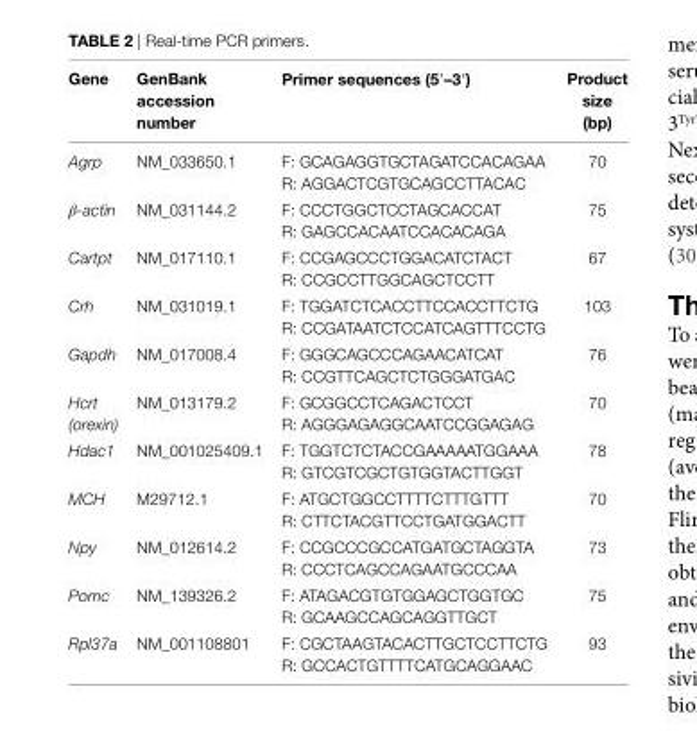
<table><thead><tr><td>gene</td><td>genbank accession number</td><td>Primer sequences (5′–3′)</td><td>Product size (bp)</td></tr></thead><tbody><tr><td>Agrp</td><td>NM_033650.1</td><td>F: GCAGAGGTGCTAGATCCACAGAA R: AGGACTCGTGCAGCCTTACAC</td><td>70</td></tr><tr><td>β-actin</td><td>NM_031144.2</td><td>F: CCCTGGCTCCTAGCACCAT R: GAGCCACAATCCACACAGA</td><td>75</td></tr><tr><td>Cartpt</td><td>NM_017110.1</td><td>F: CCGAGCCCTGGACATCTACT R: CCGCCTTGGCAGCTCCTT</td><td>67</td></tr><tr><td>Crh</td><td>NM_031019.1</td><td>F: TGGATCTCACCTTCCACCTTCTG R: CCGATAATCTCCATCAGTTTCCTG</td><td>103</td></tr><tr><td>Gapdh</td><td>NM_017008.4</td><td>F: GGGCAGCCCAGAACATCAT R: CCGTTCAGCTCTGGGATGAC</td><td>76</td></tr><tr><td>Hcrt (orexin)</td><td>NM_013179.2</td><td>F: GCGGCCTCAGACTCCT R: AGGGAGAGGCAATCCGGAGAG</td><td>70</td></tr><tr><td>Hdac1</td><td>NM_001025409.1</td><td>F: TGGTCTCTACCGAAAAATGGAAA R: GTCGTCGCTGTGGTACTTGGT</td><td>78</td></tr><tr><td>MCH</td><td>M29712.1</td><td>F: ATGCTGGCCTTTTCTTTGTTT R: CTTCTACGTTCCTGATGGACTT</td><td>70</td></tr><tr><td>Npy</td><td>NM_012614.2</td><td>F: CCGCCCGCCATGATGCTAGGTA R: CCCTCAGCCAGAATGCCCAA</td><td>73</td></tr><tr><td>Pomc</td><td>NM_139326.2</td><td>F: ATAGACGTGTGGAGCTGGTGC R: GCAAGCCAGCAGGTTGCT</td><td>75</td></tr><tr><td>Rpl37a</td><td>NM_001108801</td><td>F: CGCTAAGTACACTTGCTCCTTCTG R: GCCACTGTTTTCATGCAGGAAC</td><td>93</td></tr></tbody></table>